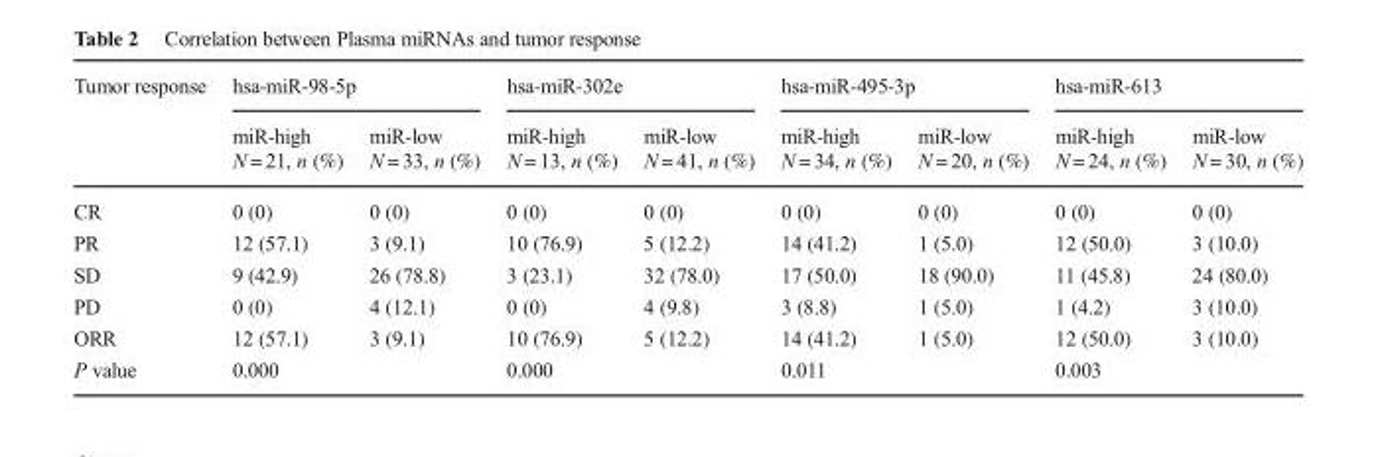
<table><thead><tr><td rowspan="2">Tumor response</td><td colspan="2">hsa-miR-98-5p</td><td colspan="2">hsa-miR-302e</td><td colspan="2">hsa-miR-495-3p</td><td colspan="2">hsa-miR-613</td></tr><tr><td>miR-high N = 21, n (%)</td><td>miR-low N = 33, n (%)</td><td>miR-high N = 13, n (%)</td><td>miR-low N = 41, n (%)</td><td>miR-high N = 34, n (%)</td><td>miR-low N = 20, n (%)</td><td>miR-high N = 24, n (%)</td><td>miR-low N = 30, n (%)</td></tr></thead><tbody><tr><td>CR</td><td>0 (0)</td><td>0 (0)</td><td>0 (0)</td><td>0 (0)</td><td>0 (0)</td><td>0 (0)</td><td>0 (0)</td><td>0 (0)</td></tr><tr><td>PR</td><td>12 (57.1)</td><td>3 (9.1)</td><td>10 (76.9)</td><td>5 (12.2)</td><td>14 (41.2)</td><td>1 (5.0)</td><td>12 (50.0)</td><td>3 (10.0)</td></tr><tr><td>SD</td><td>9 (42.9)</td><td>26 (78.8)</td><td>3 (23.1)</td><td>32 (78.0)</td><td>17 (50.0)</td><td>18 (90.0)</td><td>11 (45.8)</td><td>24 (80.0)</td></tr><tr><td>PD</td><td>0 (0)</td><td>4 (12.1)</td><td>0 (0)</td><td>4 (9.8)</td><td>3 (8.8)</td><td>1 (5.0)</td><td>1 (4.2)</td><td>3 (10.0)</td></tr><tr><td>ORR</td><td>12 (57.1)</td><td>3 (9.1)</td><td>10 (76.9)</td><td>5 (12.2)</td><td>14 (41.2)</td><td>1 (5.0)</td><td>12 (50.0)</td><td>3 (10.0)</td></tr><tr><td>P value</td><td colspan="2">0.000</td><td colspan="2">0.000</td><td colspan="2">0.011</td><td colspan="2">0.003</td></tr></tbody></table>